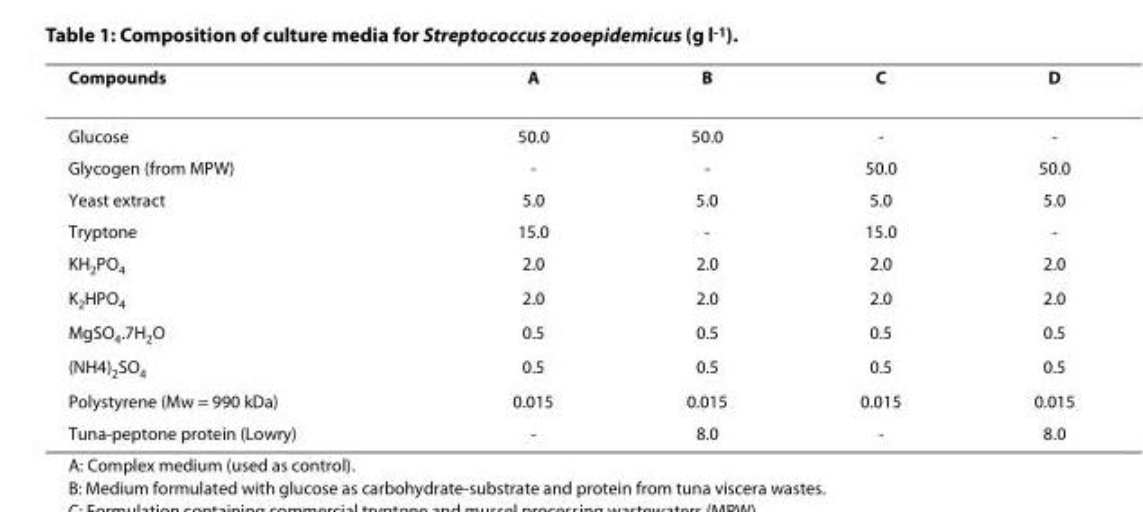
<table><thead><tr><td>Compounds</td><td>A</td><td>B</td><td>C</td><td>D</td></tr></thead><tbody><tr><td>Glucose</td><td>50.0</td><td>50.0</td><td>-</td><td>-</td></tr><tr><td>Glycogen (from MPW)</td><td>-</td><td>-</td><td>50.0</td><td>50.0</td></tr><tr><td>Yeast extract</td><td>5.0</td><td>5.0</td><td>5.0</td><td>5.0</td></tr><tr><td>Tryptone</td><td>15.0</td><td>-</td><td>15.0</td><td>-</td></tr><tr><td>KH<sub>2</sub>PO<sub>4</sub></td><td>2.0</td><td>2.0</td><td>2.0</td><td>2.0</td></tr><tr><td>K<sub>2</sub>HPO<sub>4</sub></td><td>2.0</td><td>2.0</td><td>2.0</td><td>2.0</td></tr><tr><td>MgSO<sub>4</sub>.7H<sub>2</sub>O</td><td>0.5</td><td>0.5</td><td>0.5</td><td>0.5</td></tr><tr><td>(NH4)<sub>2</sub>SO<sub>4</sub></td><td>0.5</td><td>0.5</td><td>0.5</td><td>0.5</td></tr><tr><td>Polystyrene (Mw = 990 kDa)</td><td>0.015</td><td>0.015</td><td>0.015</td><td>0.015</td></tr><tr><td>Tuna-peptone protein (Lowry)</td><td>-</td><td>8.0</td><td>-</td><td>8.0</td></tr></tbody></table>